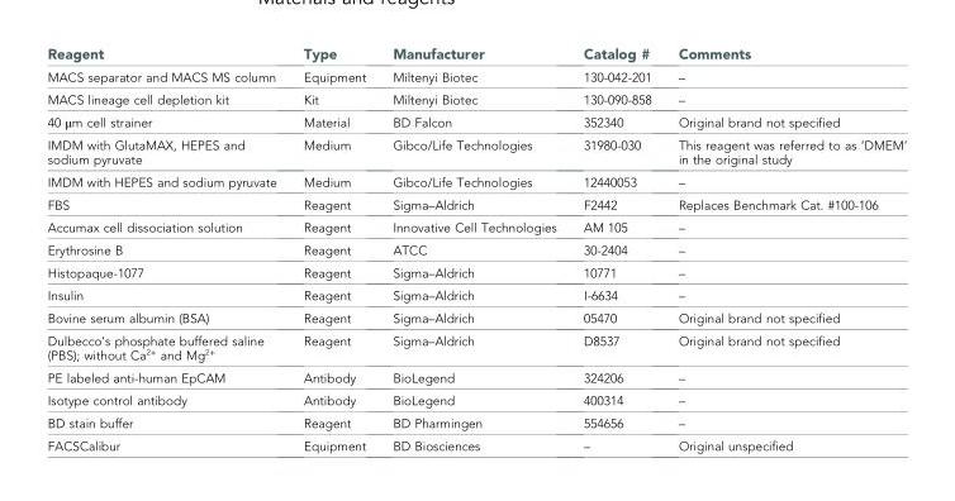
<table><thead><tr><td>Reagent</td><td>Type</td><td>Manufacturer</td><td>Catalog #</td><td>Comments</td></tr></thead><tbody><tr><td>MACS separator and MACS MS column</td><td>Equipment</td><td>Miltenyi Biotec</td><td>130-042-201</td><td>–</td></tr><tr><td>MACS lineage cell depletion kit</td><td>Kit</td><td>Miltenyi Biotec</td><td>130-090-858</td><td>–</td></tr><tr><td>40 μm cell strainer</td><td>Material</td><td>BD Falcon</td><td>352340</td><td>Original brand not specified</td></tr><tr><td>IMDM with GlutaMAX, HEPES and sodium pyruvate</td><td>Medium</td><td>Gibco/Life Technologies</td><td>31980-030</td><td>This reagent was referred to as ‘DMEM’ in the original study</td></tr><tr><td>IMDM with HEPES and sodium pyruvate</td><td>Medium</td><td>Gibco/Life Technologies</td><td>12440053</td><td>–</td></tr><tr><td>FBS</td><td>Reagent</td><td>Sigma–Aldrich</td><td>F2442</td><td>Replaces Benchmark Cat. #100-106</td></tr><tr><td>Accumax cell dissociation solution</td><td>Reagent</td><td>Innovative Cell Technologies</td><td>AM 105</td><td>–</td></tr><tr><td>Erythrosine B</td><td>Reagent</td><td>ATCC</td><td>30-2404</td><td>–</td></tr><tr><td>Histopaque-1077</td><td>Reagent</td><td>Sigma–Aldrich</td><td>10771</td><td>–</td></tr><tr><td>Insulin</td><td>Reagent</td><td>Sigma–Aldrich</td><td>I-6634</td><td>–</td></tr><tr><td>Bovine serum albumin (BSA)</td><td>Reagent</td><td>Sigma–Aldrich</td><td>05470</td><td>Original brand not specified</td></tr><tr><td>Dulbecco’s phosphate buffered saline (PBS); without Ca<sup>2+</sup> and Mg<sup>2+</sup></td><td>Reagent</td><td>Sigma–Aldrich</td><td>D8537</td><td>Original brand not specified</td></tr><tr><td>PE labeled anti-human EpCAM</td><td>Antibody</td><td>BioLegend</td><td>324206</td><td>–</td></tr><tr><td>Isotype control antibody</td><td>Antibody</td><td>BioLegend</td><td>400314</td><td>–</td></tr><tr><td>BD stain buffer</td><td>Reagent</td><td>BD Pharmingen</td><td>554656</td><td>–</td></tr><tr><td>FACSCalibur</td><td>Equipment</td><td>BD Biosciences</td><td>–</td><td>Original unspecified</td></tr></tbody></table>